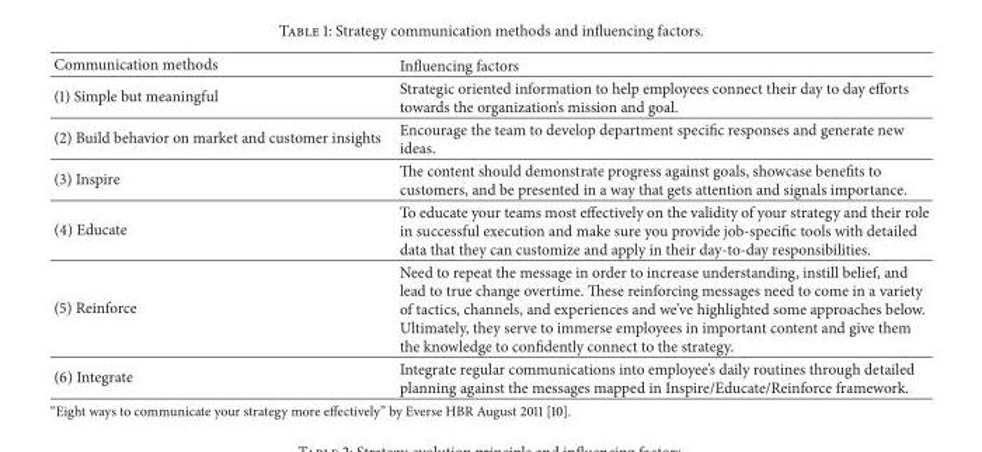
<table><thead><tr><td>Communication methods</td><td>Influencing factors</td></tr></thead><tbody><tr><td>(1) Simple but meaningful</td><td>Strategic oriented information to help employees connect their day to day efforts towards the organization’s mission and goal.</td></tr><tr><td>(2) Build behavior on market and customer insights</td><td>Encourage the team to develop department specific responses and generate new ideas.</td></tr><tr><td>(3) Inspire</td><td>The content should demonstrate progress against goals, showcase benefits to customers, and be presented in a way that gets attention and signals importance.</td></tr><tr><td>(4) Educate</td><td>To educate your teams most effectively on the validity of your strategy and their role in successful execution and make sure you provide job-specific tools with detailed data that they can customize and apply in their day-to-day responsibilities.</td></tr><tr><td>(5) Reinforce</td><td>Need to repeat the message in order to increase understanding, instill belief, and lead to true change overtime. These reinforcing messages need to come in a variety of tactics, channels, and experiences and we’ve highlighted some approaches below. Ultimately, they serve to immerse employees in important content and give them the knowledge to confidently connect to the strategy.</td></tr><tr><td>(6) Integrate</td><td>Integrate regular communications into employee’s daily routines through detailed planning against the messages mapped in Inspire/Educate/Reinforce framework.</td></tr></tbody></table>